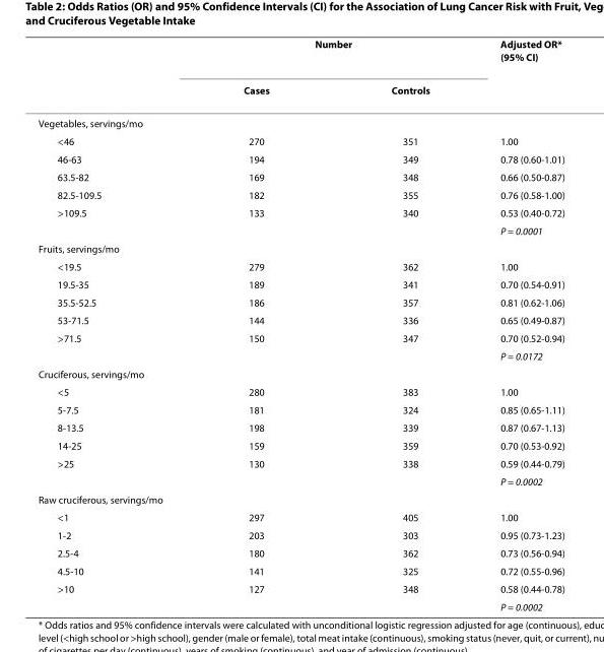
<table><thead><tr><td rowspan="2"></td><td colspan="2">Number</td><td rowspan="2">Adjusted OR* (95% CI)</td></tr><tr><td>Cases</td><td>Controls</td></tr></thead><tbody><tr><td colspan="4">Vegetables, servings/mo</td></tr><tr><td>&lt;46</td><td>270</td><td>351</td><td>1.00</td></tr><tr><td>46-63</td><td>194</td><td>349</td><td>0.78 (0.60-1.01)</td></tr><tr><td>63.5-82</td><td>169</td><td>348</td><td>0.66 (0.50-0.87)</td></tr><tr><td>82.5-109.5</td><td>182</td><td>355</td><td>0.76 (0.58-1.00)</td></tr><tr><td rowspan="2">&gt;109.5</td><td>133</td><td>340</td><td>0.53 (0.40-0.72)</td></tr><tr><td></td><td></td><td>P = 0.0001</td></tr><tr><td colspan="4">Fruits, servings/mo</td></tr><tr><td>&lt;19.5</td><td>279</td><td>362</td><td>1.00</td></tr><tr><td>19.5-35</td><td>189</td><td>341</td><td>0.70 (0.54-0.91)</td></tr><tr><td>35.5-52.5</td><td>186</td><td>357</td><td>0.81 (0.62-1.06)</td></tr><tr><td>53-71.5</td><td>144</td><td>336</td><td>0.65 (0.49-0.87)</td></tr><tr><td rowspan="2">&gt;71.5</td><td>150</td><td>347</td><td>0.70 (0.52-0.94)</td></tr><tr><td></td><td></td><td>P = 0.0172</td></tr><tr><td colspan="4">Cruciferous, servings/mo</td></tr><tr><td>&lt;5</td><td>280</td><td>383</td><td>1.00</td></tr><tr><td>5-7.5</td><td>181</td><td>324</td><td>0.85 (0.65-1.11)</td></tr><tr><td>8-13.5</td><td>198</td><td>339</td><td>0.87 (0.67-1.13)</td></tr><tr><td>14-25</td><td>159</td><td>359</td><td>0.70 (0.53-0.92)</td></tr><tr><td rowspan="2">&gt;25</td><td>130</td><td>338</td><td>0.59 (0.44-0.79)</td></tr><tr><td></td><td></td><td>P = 0.0002</td></tr><tr><td colspan="4">Raw cruciferous, servings/mo</td></tr><tr><td>&lt;1</td><td>297</td><td>405</td><td>1.00</td></tr><tr><td>1-2</td><td>203</td><td>303</td><td>0.95 (0.73-1.23)</td></tr><tr><td>2.5-4</td><td>180</td><td>362</td><td>0.73 (0.56-0.94)</td></tr><tr><td>4.5-10</td><td>141</td><td>325</td><td>0.72 (0.55-0.96)</td></tr><tr><td rowspan="2">&gt;10</td><td>127</td><td>348</td><td>0.58 (0.44-0.78)</td></tr><tr><td></td><td></td><td>P = 0.0002</td></tr></tbody></table>